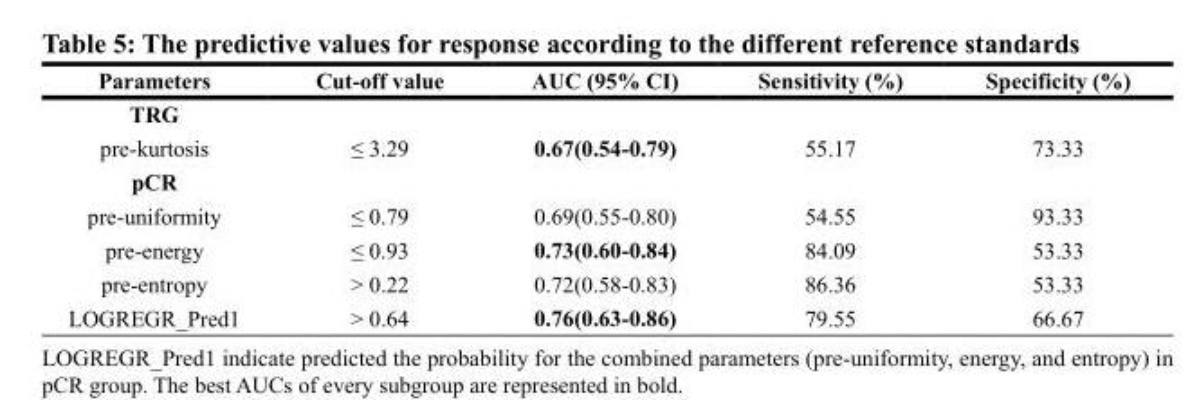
<table><thead><tr><td>Parameters</td><td>Cut-off value</td><td>AUC (95% CI)</td><td>Sensitivity (%)</td><td>Specificity (%)</td></tr></thead><tbody><tr><td colspan="5">TRG</td></tr><tr><td>pre-kurtosis</td><td>≤ 3.29</td><td>0.67(0.54-0.79)</td><td>55.17</td><td>73.33</td></tr><tr><td colspan="5">pCR</td></tr><tr><td>pre-uniformity</td><td>≤ 0.79</td><td>0.69(0.55-0.80)</td><td>54.55</td><td>93.33</td></tr><tr><td>pre-energy</td><td>≤ 0.93</td><td>0.73(0.60-0.84)</td><td>84.09</td><td>53.33</td></tr><tr><td>pre-entropy</td><td>&gt; 0.22</td><td>0.72(0.58-0.83)</td><td>86.36</td><td>53.33</td></tr><tr><td>LOGREGR_Pred1</td><td>&gt; 0.64</td><td>0.76(0.63-0.86)</td><td>79.55</td><td>66.67</td></tr></tbody></table>